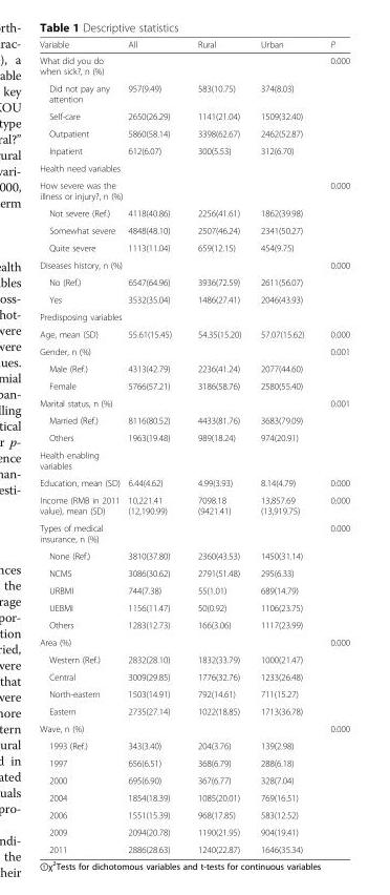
<table><thead><tr><td>Variable</td><td>All</td><td>Rural</td><td>Urban</td><td>P</td></tr></thead><tbody><tr><td colspan="4">What did you do when sick?, n (%)</td><td>0.000</td></tr><tr><td>Did not pay any attention</td><td>957(9.49)</td><td>583(10.75)</td><td>374(8.03)</td><td></td></tr><tr><td>Self-care</td><td>2650(26.29)</td><td>1141(21.04)</td><td>1509(32.40)</td><td></td></tr><tr><td>Outpatient</td><td>5860(58.14)</td><td>3398(62.67)</td><td>2462(52.87)</td><td></td></tr><tr><td>Inpatient</td><td>612(6.07)</td><td>300(5.53)</td><td>312(6.70)</td><td></td></tr><tr><td colspan="5">Health need variables</td></tr><tr><td colspan="4">How severe was the illness or injury?, n (%)</td><td>0.000</td></tr><tr><td>Not severe (Ref.)</td><td>4118(40.86)</td><td>2256(41.61)</td><td>1862(39.98)</td><td></td></tr><tr><td>Somewhat severe</td><td>4848(48.10)</td><td>2507(46.24)</td><td>2341(50.27)</td><td></td></tr><tr><td>Quite severe</td><td>1113(11.04)</td><td>659(12.15)</td><td>454(9.75)</td><td></td></tr><tr><td colspan="4">Diseases history, n (%)</td><td>0.000</td></tr><tr><td>No (Ref.)</td><td>6547(64.96)</td><td>3936(72.59)</td><td>2611(56.07)</td><td></td></tr><tr><td>Yes</td><td>3532(35.04)</td><td>1486(27.41)</td><td>2046(43.93)</td><td></td></tr><tr><td colspan="5">Predisposing variables</td></tr><tr><td>Age, mean (SD)</td><td>55.61(15.45)</td><td>54.35(15.20)</td><td>57.07(15.62)</td><td>0.000</td></tr><tr><td colspan="4">Gender, n (%)</td><td>0.001</td></tr><tr><td>Male (Ref.)</td><td>4313(42.79)</td><td>2236(41.24)</td><td>2077(44.60)</td><td></td></tr><tr><td>Female</td><td>5766(57.21)</td><td>3186(58.76)</td><td>2580(55.40)</td><td></td></tr><tr><td colspan="4">Marital status, n (%)</td><td>0.001</td></tr><tr><td>Married (Ref.)</td><td>8116(80.52)</td><td>4433(81.76)</td><td>3683(79.09)</td><td></td></tr><tr><td>Others</td><td>1963(19.48)</td><td>989(18.24)</td><td>974(20.91)</td><td></td></tr><tr><td colspan="5">Health enabling variables</td></tr><tr><td>Education, mean (SD)</td><td>6.44(4.62)</td><td>4.99(3.93)</td><td>8.14(4.79)</td><td>0.000</td></tr><tr><td>Income (RMB in 2011 value), mean (SD)</td><td>10,221.41 (12,190.99)</td><td>7098.18 (9421.41)</td><td>13,857.69 (13,919.75)</td><td>0.000</td></tr><tr><td colspan="4">Types of medical insurance, n (%)</td><td>0.000</td></tr><tr><td>None (Ref.)</td><td>3810(37.80)</td><td>2360(43.53)</td><td>1450(31.14)</td><td></td></tr><tr><td>NCMS</td><td>3086(30.62)</td><td>2791(51.48)</td><td>295(6.33)</td><td></td></tr><tr><td>URBMI</td><td>744(7.38)</td><td>55(1.01)</td><td>689(14.79)</td><td></td></tr><tr><td>UEBMI</td><td>1156(11.47)</td><td>50(0.92)</td><td>1106(23.75)</td><td></td></tr><tr><td>Others</td><td>1283(12.73)</td><td>166(3.06)</td><td>1117(23.99)</td><td></td></tr><tr><td colspan="4">Area (%)</td><td>0.000</td></tr><tr><td>Western (Ref.)</td><td>2832(28.10)</td><td>1832(33.79)</td><td>1000(21.47)</td><td></td></tr><tr><td>Central</td><td>3009(29.85)</td><td>1776(32.76)</td><td>1233(26.48)</td><td></td></tr><tr><td>North-eastern</td><td>1503(14.91)</td><td>792(14.61)</td><td>711(15.27)</td><td></td></tr><tr><td>Eastern</td><td>2735(27.14)</td><td>1022(18.85)</td><td>1713(36.78)</td><td></td></tr><tr><td colspan="4">Wave, n (%)</td><td>0.000</td></tr><tr><td>1993 (Ref.)</td><td>343(3.40)</td><td>204(3.76)</td><td>139(2.98)</td><td></td></tr><tr><td>1997</td><td>656(6.51)</td><td>368(6.79)</td><td>288(6.18)</td><td></td></tr><tr><td>2000</td><td>695(6.90)</td><td>367(6.77)</td><td>328(7.04)</td><td></td></tr><tr><td>2004</td><td>1854(18.39)</td><td>1085(20.01)</td><td>769(16.51)</td><td></td></tr><tr><td>2006</td><td>1551(15.39)</td><td>968(17.85)</td><td>583(12.52)</td><td></td></tr><tr><td>2009</td><td>2094(20.78)</td><td>1190(21.95)</td><td>904(19.41)</td><td></td></tr><tr><td>2011</td><td>2886(28.63)</td><td>1240(22.87)</td><td>1646(35.34)</td><td></td></tr></tbody></table>